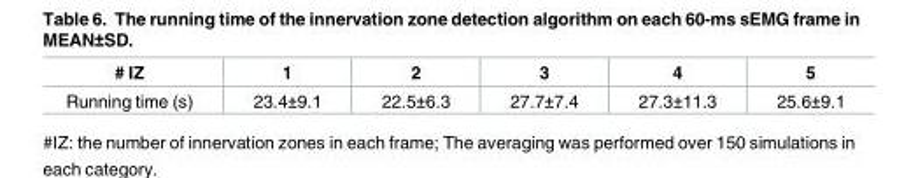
<table><thead><tr><td># IZ</td><td>1</td><td>2</td><td>3</td><td>4</td><td>5</td></tr></thead><tbody><tr><td>Running time (s)</td><td>23.4±9.1</td><td>22.5±6.3</td><td>27.7±7.4</td><td>27.3±11.3</td><td>25.6±9.1</td></tr></tbody></table>